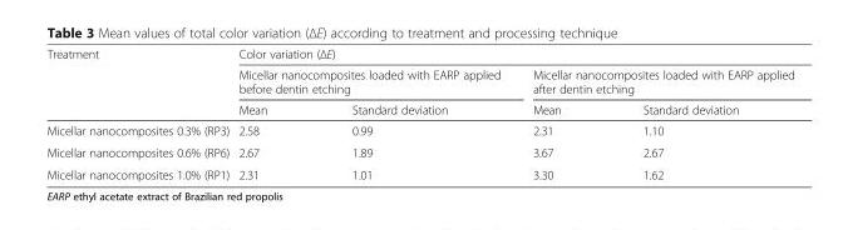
<table><thead><tr><td rowspan="3">Treatment</td><td colspan="4">Color variation (ΔE)</td></tr><tr><td colspan="2">Micellar nanocomposites loaded with EARP applied before dentin etching</td><td colspan="2">Micellar nanocomposites loaded with EARP applied after dentin etching</td></tr><tr><td>Mean</td><td>Standard deviation</td><td>Mean</td><td>Standard deviation</td></tr></thead><tbody><tr><td>Micellar nanocomposites 0.3% (RP3)</td><td>2.58</td><td>0.99</td><td>2.31</td><td>1.10</td></tr><tr><td>Micellar nanocomposites 0.6% (RP6)</td><td>2.67</td><td>1.89</td><td>3.67</td><td>2.67</td></tr><tr><td>Micellar nanocomposites 1.0% (RP1)</td><td>2.31</td><td>1.01</td><td>3.30</td><td>1.62</td></tr></tbody></table>